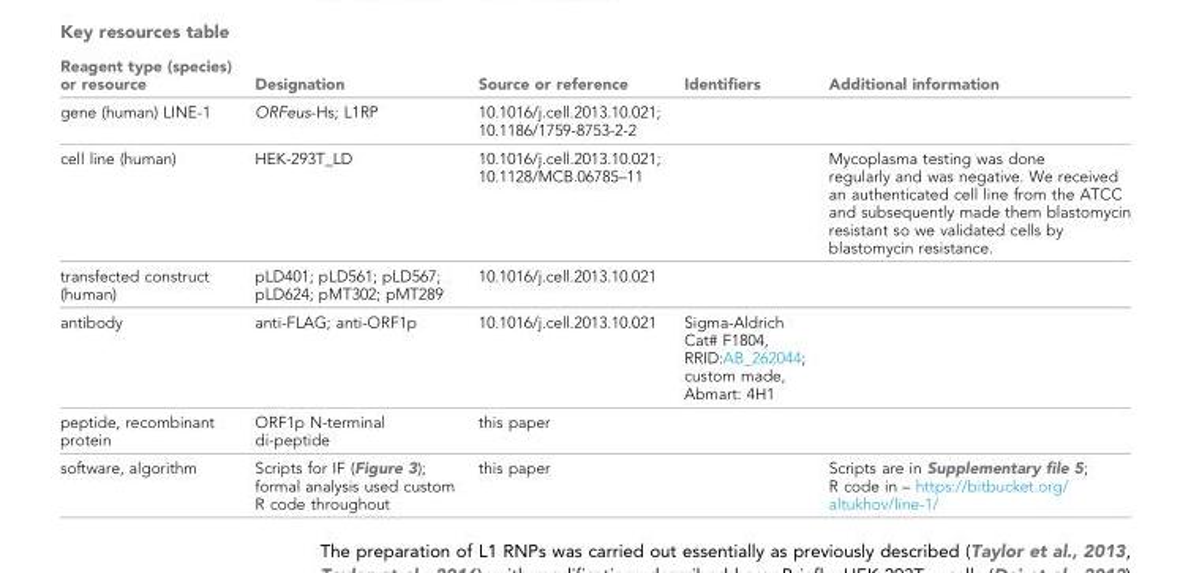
<table><thead><tr><td>Reagent type (species) or resource</td><td>Designation</td><td>Source or reference</td><td>Identifiers</td><td>Additional information</td></tr></thead><tbody><tr><td>gene (human) LINE-1</td><td>ORFeus-Hs; L1RP</td><td>10.1016/j.cell.2013.10.021; 10.1186/1759-8753-2-2</td><td></td><td></td></tr><tr><td>cell line (human)</td><td>HEK-293T_LD</td><td>10.1016/j.cell.2013.10.021; 10.1128/MCB.06785–11</td><td></td><td>Mycoplasma testing was done regularly and was negative. We received an authenticated cell line from the ATCC and subsequently made them blastomycin resistant so we validated cells by blastomycin resistance.</td></tr><tr><td>transfected construct (human)</td><td>pLD401; pLD561; pLD567; pLD624; pMT302; pMT289</td><td>10.1016/j.cell.2013.10.021</td><td></td><td></td></tr><tr><td>antibody</td><td>anti-FLAG; anti-ORF1p</td><td>10.1016/j.cell.2013.10.021</td><td>Sigma-Aldrich Cat# F1804, RRID:AB_262044; custom made, Abmart: 4H1</td><td></td></tr><tr><td>peptide, recombinant protein</td><td>ORF1p N-terminal di-peptide</td><td>this paper</td><td></td><td></td></tr><tr><td>software, algorithm</td><td>Scripts for IF (Figure 3); formal analysis used custom R code throughout</td><td>this paper</td><td></td><td>Scripts are in Supplementary file 5; R code in – https://bitbucket.org/ altukhov/line-1/</td></tr></tbody></table>